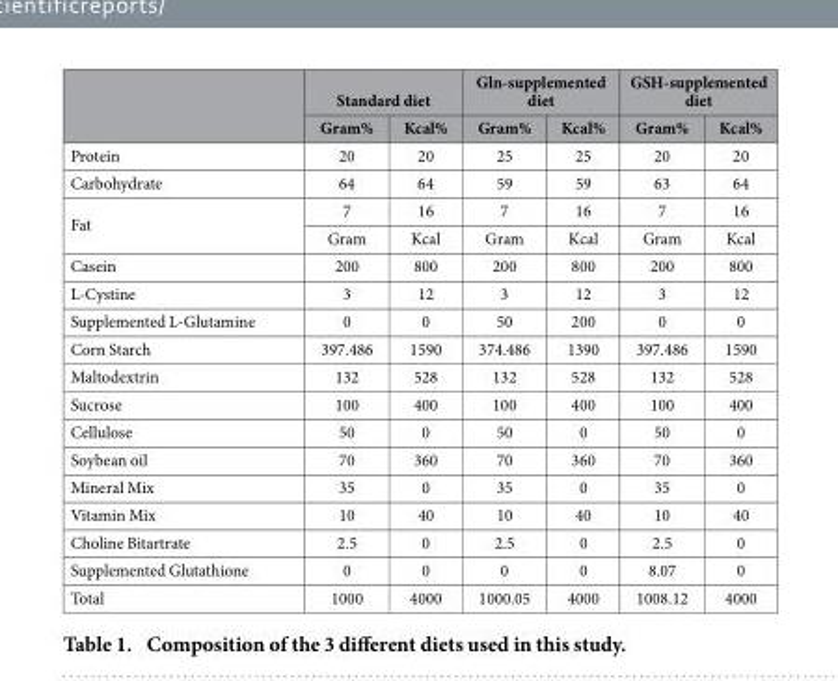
<table><thead><tr><td rowspan="2"></td><td colspan="2">Standard diet</td><td colspan="2">Gln-supplemented diet</td><td colspan="2">GSH-supplemented diet</td></tr><tr><td>Gram%</td><td>Kcal%</td><td>Gram%</td><td>Kcal%</td><td>Gram%</td><td>Kcal%</td></tr></thead><tbody><tr><td>Protein</td><td>20</td><td>20</td><td>25</td><td>25</td><td>20</td><td>20</td></tr><tr><td>Carbohydrate</td><td>64</td><td>64</td><td>59</td><td>59</td><td>63</td><td>64</td></tr><tr><td rowspan="2">Fat</td><td>7</td><td>16</td><td>7</td><td>16</td><td>7</td><td>16</td></tr><tr><td>Gram</td><td>Kcal</td><td>Gram</td><td>Kcal</td><td>Gram</td><td>Kcal</td></tr><tr><td>Casein</td><td>200</td><td>800</td><td>200</td><td>800</td><td>200</td><td>800</td></tr><tr><td>L-Cystine</td><td>3</td><td>12</td><td>3</td><td>12</td><td>3</td><td>12</td></tr><tr><td>Supplemented L-Glutamine</td><td>0</td><td>0</td><td>50</td><td>200</td><td>0</td><td>0</td></tr><tr><td>Corn Starch</td><td>397.486</td><td>1590</td><td>374.486</td><td>1390</td><td>397.486</td><td>1590</td></tr><tr><td>Maltodextrin</td><td>132</td><td>528</td><td>132</td><td>528</td><td>132</td><td>528</td></tr><tr><td>Sucrose</td><td>100</td><td>400</td><td>100</td><td>400</td><td>100</td><td>400</td></tr><tr><td>Cellulose</td><td>50</td><td>0</td><td>50</td><td>0</td><td>50</td><td>0</td></tr><tr><td>Soybean oil</td><td>70</td><td>360</td><td>70</td><td>360</td><td>70</td><td>360</td></tr><tr><td>Mineral Mix</td><td>35</td><td>0</td><td>35</td><td>0</td><td>35</td><td>0</td></tr><tr><td>Vitamin Mix</td><td>10</td><td>40</td><td>10</td><td>40</td><td>10</td><td>40</td></tr><tr><td>Choline Bitartrate</td><td>2.5</td><td>0</td><td>2.5</td><td>0</td><td>2.5</td><td>0</td></tr><tr><td>Supplemented Glutathione</td><td>0</td><td>0</td><td>0</td><td>0</td><td>8.07</td><td>0</td></tr><tr><td>Total</td><td>1000</td><td>4000</td><td>1000.05</td><td>4000</td><td>1008.12</td><td>4000</td></tr></tbody></table>